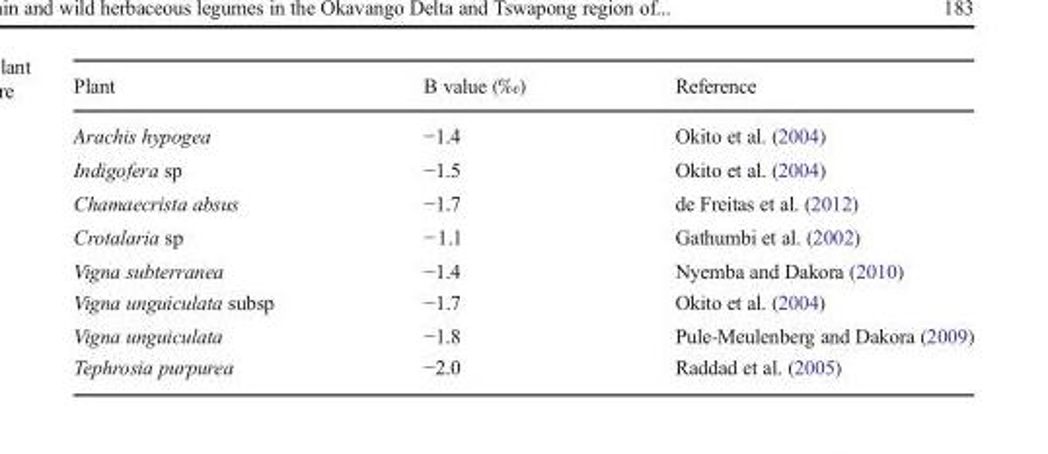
<table><thead><tr><td>Plant</td><td>B value (‰)</td><td>Reference</td></tr></thead><tbody><tr><td>Arachis hypogea</td><td>−1.4</td><td>Okito et al. (2004)</td></tr><tr><td>Indigofera sp</td><td>−1.5</td><td>Okito et al. (2004)</td></tr><tr><td>Chamaecrista absus</td><td>−1.7</td><td>de Freitas et al. (2012)</td></tr><tr><td>Crotalaria sp</td><td>−1.1</td><td>Gathumbi et al. (2002)</td></tr><tr><td>Vigna subterranea</td><td>−1.4</td><td>Nyemba and Dakora (2010)</td></tr><tr><td>Vigna unguiculata subsp</td><td>−1.7</td><td>Okito et al. (2004)</td></tr><tr><td>Vigna unguiculata</td><td>−1.8</td><td>Pule-Meulenberg and Dakora (2009)</td></tr><tr><td>Tephrosia purpurea</td><td>−2.0</td><td>Raddad et al. (2005)</td></tr></tbody></table>